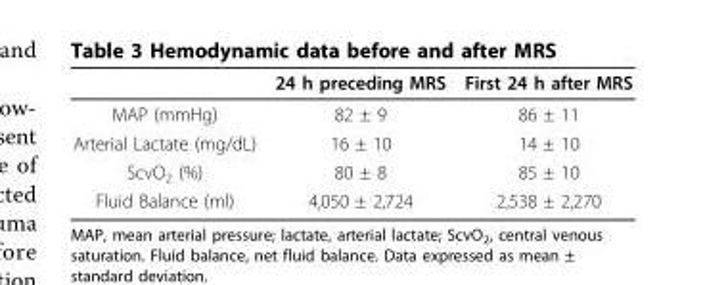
<table><thead><tr><td></td><td>24 h preceding MRS</td><td>First 24 h after MRS</td></tr></thead><tbody><tr><td>MAP (mmHg)</td><td>82 ± 9</td><td>86 ± 11</td></tr><tr><td>Arterial Lactate (mg/dL)</td><td>16 ± 10</td><td>14 ± 10</td></tr><tr><td>ScvO<sub>2</sub> (%)</td><td>80 ± 8</td><td>85 ± 10</td></tr><tr><td>Fluid Balance (ml)</td><td>4,050 ± 2,724</td><td>2,538 ± 2,270</td></tr></tbody></table>